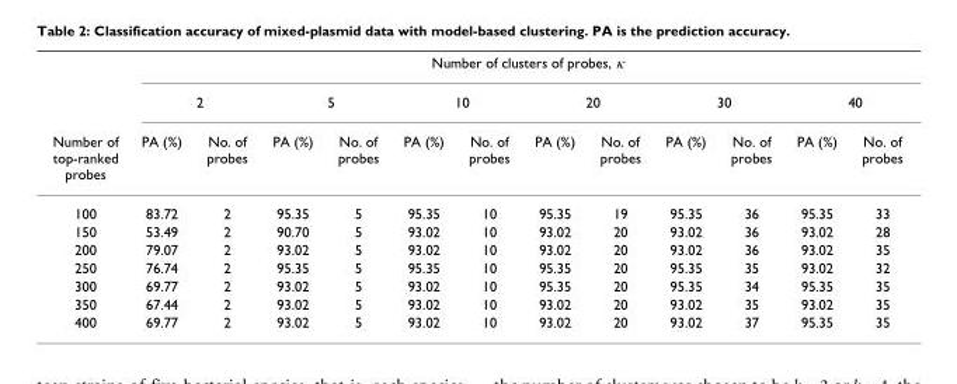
<table><thead><tr><td rowspan="3">Number of top-ranked probes</td><td colspan="12">Number of clusters of probes, κ</td></tr><tr><td colspan="2">2</td><td colspan="2">5</td><td colspan="2">10</td><td colspan="2">20</td><td colspan="2">30</td><td colspan="2">40</td></tr><tr><td>PA (%)</td><td>No. of probes</td><td>PA (%)</td><td>No. of probes</td><td>PA (%)</td><td>No. of probes</td><td>PA (%)</td><td>No. of probes</td><td>PA (%)</td><td>No. of probes</td><td>PA (%)</td><td>No. of probes</td></tr></thead><tbody><tr><td>100</td><td>83.72</td><td>2</td><td>95.35</td><td>5</td><td>95.35</td><td>10</td><td>95.35</td><td>19</td><td>95.35</td><td>36</td><td>95.35</td><td>33</td></tr><tr><td>150</td><td>53.49</td><td>2</td><td>90.70</td><td>5</td><td>93.02</td><td>10</td><td>93.02</td><td>20</td><td>93.02</td><td>36</td><td>93.02</td><td>28</td></tr><tr><td>200</td><td>79.07</td><td>2</td><td>93.02</td><td>5</td><td>93.02</td><td>10</td><td>93.02</td><td>20</td><td>93.02</td><td>36</td><td>93.02</td><td>35</td></tr><tr><td>250</td><td>76.74</td><td>2</td><td>95.35</td><td>5</td><td>95.35</td><td>10</td><td>95.35</td><td>20</td><td>95.35</td><td>35</td><td>93.02</td><td>32</td></tr><tr><td>300</td><td>69.77</td><td>2</td><td>93.02</td><td>5</td><td>93.02</td><td>10</td><td>95.35</td><td>20</td><td>95.35</td><td>34</td><td>95.35</td><td>35</td></tr><tr><td>350</td><td>67.44</td><td>2</td><td>93.02</td><td>5</td><td>93.02</td><td>10</td><td>93.02</td><td>20</td><td>93.02</td><td>35</td><td>93.02</td><td>35</td></tr><tr><td>400</td><td>69.77</td><td>2</td><td>93.02</td><td>5</td><td>93.02</td><td>10</td><td>93.02</td><td>20</td><td>93.02</td><td>37</td><td>95.35</td><td>35</td></tr></tbody></table>